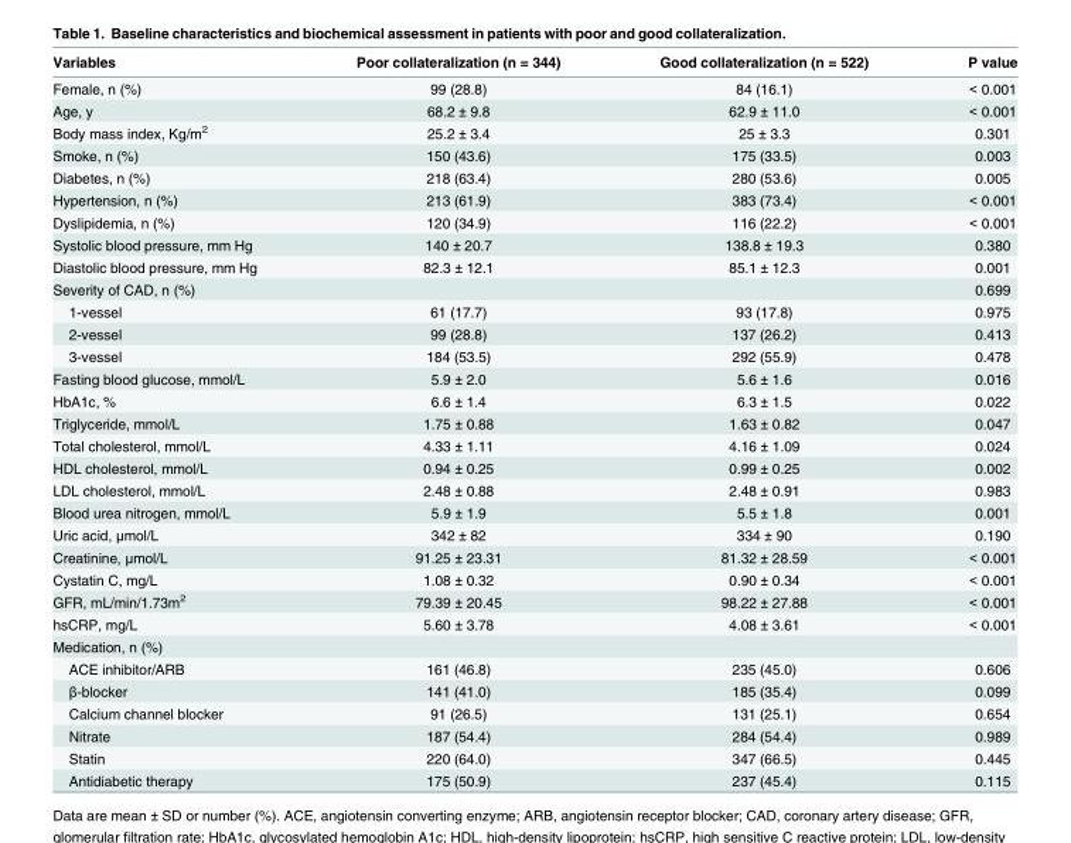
<table><thead><tr><td>Variables</td><td>Poor collateralization (n = 344)</td><td>Good collateralization (n = 522)</td><td>P value</td></tr></thead><tbody><tr><td>Female, n (%)</td><td>99 (28.8)</td><td>84 (16.1)</td><td>&lt; 0.001</td></tr><tr><td>Age, y</td><td>68.2 ± 9.8</td><td>62.9 ± 11.0</td><td>&lt; 0.001</td></tr><tr><td>Body mass index, Kg/m<sup>2</sup></td><td>25.2 ± 3.4</td><td>25 ± 3.3</td><td>0.301</td></tr><tr><td>Smoke, n (%)</td><td>150 (43.6)</td><td>175 (33.5)</td><td>0.003</td></tr><tr><td>Diabetes, n (%)</td><td>218 (63.4)</td><td>280 (53.6)</td><td>0.005</td></tr><tr><td>Hypertension, n (%)</td><td>213 (61.9)</td><td>383 (73.4)</td><td>&lt; 0.001</td></tr><tr><td>Dyslipidemia, n (%)</td><td>120 (34.9)</td><td>116 (22.2)</td><td>&lt; 0.001</td></tr><tr><td>Systolic blood pressure, mm Hg</td><td>140 ± 20.7</td><td>138.8 ± 19.3</td><td>0.380</td></tr><tr><td>Diastolic blood pressure, mm Hg</td><td>82.3 ± 12.1</td><td>85.1 ± 12.3</td><td>0.001</td></tr><tr><td>Severity of CAD, n (%)</td><td></td><td></td><td>0.699</td></tr><tr><td>1-vessel</td><td>61 (17.7)</td><td>93 (17.8)</td><td>0.975</td></tr><tr><td>2-vessel</td><td>99 (28.8)</td><td>137 (26.2)</td><td>0.413</td></tr><tr><td>3-vessel</td><td>184 (53.5)</td><td>292 (55.9)</td><td>0.478</td></tr><tr><td>Fasting blood glucose, mmol/L</td><td>5.9 ± 2.0</td><td>5.6 ± 1.6</td><td>0.016</td></tr><tr><td>HbA1c, %</td><td>6.6 ± 1.4</td><td>6.3 ± 1.5</td><td>0.022</td></tr><tr><td>Triglyceride, mmol/L</td><td>1.75 ± 0.88</td><td>1.63 ± 0.82</td><td>0.047</td></tr><tr><td>Total cholesterol, mmol/L</td><td>4.33 ± 1.11</td><td>4.16 ± 1.09</td><td>0.024</td></tr><tr><td>HDL cholesterol, mmol/L</td><td>0.94 ± 0.25</td><td>0.99 ± 0.25</td><td>0.002</td></tr><tr><td>LDL cholesterol, mmol/L</td><td>2.48 ± 0.88</td><td>2.48 ± 0.91</td><td>0.983</td></tr><tr><td>Blood urea nitrogen, mmol/L</td><td>5.9 ± 1.9</td><td>5.5 ± 1.8</td><td>0.001</td></tr><tr><td>Uric acid, μmol/L</td><td>342 ± 82</td><td>334 ± 90</td><td>0.190</td></tr><tr><td>Creatinine, μmol/L</td><td>91.25 ± 23.31</td><td>81.32 ± 28.59</td><td>&lt; 0.001</td></tr><tr><td>Cystatin C, mg/L</td><td>1.08 ± 0.32</td><td>0.90 ± 0.34</td><td>&lt; 0.001</td></tr><tr><td>GFR, mL/min/1.73m<sup>2</sup></td><td>79.39 ± 20.45</td><td>98.22 ± 27.88</td><td>&lt; 0.001</td></tr><tr><td>hsCRP, mg/L</td><td>5.60 ± 3.78</td><td>4.08 ± 3.61</td><td>&lt; 0.001</td></tr><tr><td colspan="4">Medication, n (%)</td></tr><tr><td>ACE inhibitor/ARB</td><td>161 (46.8)</td><td>235 (45.0)</td><td>0.606</td></tr><tr><td>β-blocker</td><td>141 (41.0)</td><td>185 (35.4)</td><td>0.099</td></tr><tr><td>Calcium channel blocker</td><td>91 (26.5)</td><td>131 (25.1)</td><td>0.654</td></tr><tr><td>Nitrate</td><td>187 (54.4)</td><td>284 (54.4)</td><td>0.989</td></tr><tr><td>Statin</td><td>220 (64.0)</td><td>347 (66.5)</td><td>0.445</td></tr><tr><td>Antidiabetic therapy</td><td>175 (50.9)</td><td>237 (45.4)</td><td>0.115</td></tr></tbody></table>